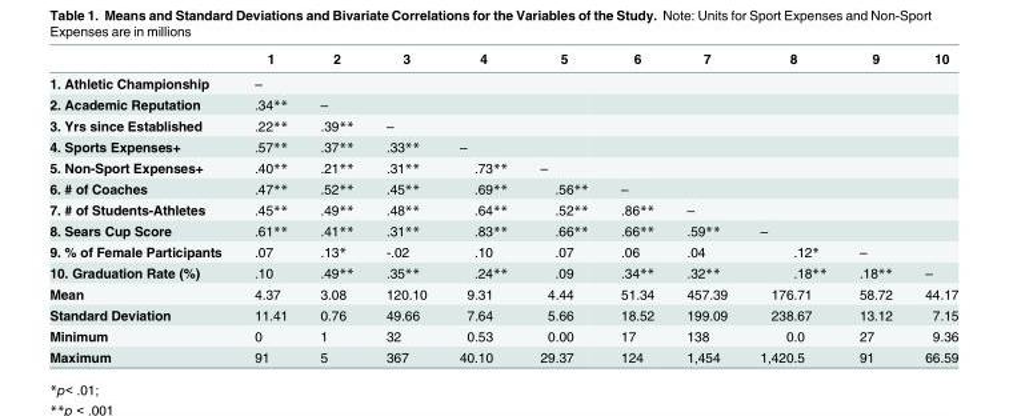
<table><thead><tr><td></td><td>1</td><td>2</td><td>3</td><td>4</td><td>5</td><td>6</td><td>7</td><td>8</td><td>9</td><td>10</td></tr></thead><tbody><tr><td>1. Athletic Championship</td><td>–</td><td></td><td></td><td></td><td></td><td></td><td></td><td></td><td></td><td></td></tr><tr><td>2. Academic Reputation</td><td>.34**</td><td>–</td><td></td><td></td><td></td><td></td><td></td><td></td><td></td><td></td></tr><tr><td>3. Yrs since Established</td><td>.22**</td><td>.39**</td><td>–</td><td></td><td></td><td></td><td></td><td></td><td></td><td></td></tr><tr><td>4. Sports Expenses+</td><td>.57**</td><td>.37**</td><td>.33**</td><td>–</td><td></td><td></td><td></td><td></td><td></td><td></td></tr><tr><td>5. Non-Sport Expenses+</td><td>.40**</td><td>.21**</td><td>.31**</td><td>.73**</td><td>–</td><td></td><td></td><td></td><td></td><td></td></tr><tr><td>6. # of Coaches</td><td>.47**</td><td>.52**</td><td>.45**</td><td>.69**</td><td>.56**</td><td>–</td><td></td><td></td><td></td><td></td></tr><tr><td>7. # of Students-Athletes</td><td>.45**</td><td>.49**</td><td>.48**</td><td>.64**</td><td>.52**</td><td>.86**</td><td>–</td><td></td><td></td><td></td></tr><tr><td>8. Sears Cup Score</td><td>.61**</td><td>.41**</td><td>.31**</td><td>.83**</td><td>.66**</td><td>.66**</td><td>.59**</td><td>–</td><td></td><td></td></tr><tr><td>9. % of Female Participants</td><td>.07</td><td>.13*</td><td>-.02</td><td>.10</td><td>.07</td><td>.06</td><td>.04</td><td>.12*</td><td>–</td><td></td></tr><tr><td>10. Graduation Rate (%)</td><td>.10</td><td>.49**</td><td>.35**</td><td>.24**</td><td>.09</td><td>.34**</td><td>.32**</td><td>.18**</td><td>.18**</td><td>–</td></tr><tr><td>Mean</td><td>4.37</td><td>3.08</td><td>120.10</td><td>9.31</td><td>4.44</td><td>51.34</td><td>457.39</td><td>176.71</td><td>58.72</td><td>44.17</td></tr><tr><td>Standard Deviation</td><td>11.41</td><td>0.76</td><td>49.66</td><td>7.64</td><td>5.66</td><td>18.52</td><td>199.09</td><td>238.67</td><td>13.12</td><td>7.15</td></tr><tr><td>Minimum</td><td>0</td><td>1</td><td>32</td><td>0.53</td><td>0.00</td><td>17</td><td>138</td><td>0.0</td><td>27</td><td>9.36</td></tr><tr><td>Maximum</td><td>91</td><td>5</td><td>367</td><td>40.10</td><td>29.37</td><td>124</td><td>1,454</td><td>1,420.5</td><td>91</td><td>66.59</td></tr></tbody></table>